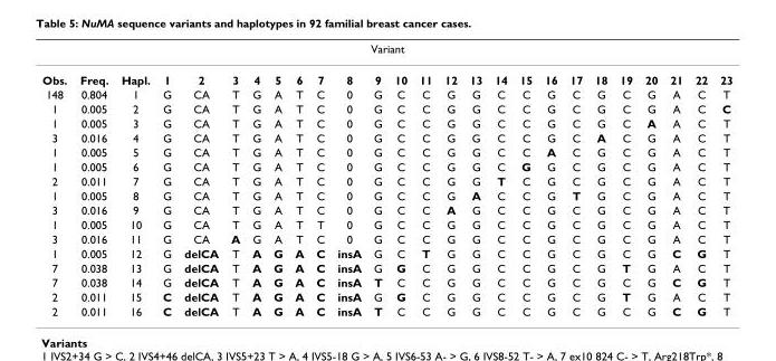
<table><thead><tr><td colspan="26">Variant</td></tr><tr><td>Obs.</td><td>Freq.</td><td>Hapl.</td><td>1</td><td>2</td><td>3</td><td>4</td><td>5</td><td>6</td><td>7</td><td>8</td><td>9</td><td>10</td><td>11</td><td>12</td><td>13</td><td>14</td><td>15</td><td>16</td><td>17</td><td>18</td><td>19</td><td>20</td><td>21</td><td>22</td><td>23</td></tr></thead><tbody><tr><td>148</td><td>0.804</td><td>1</td><td>G</td><td>CA</td><td>T</td><td>G</td><td>A</td><td>T</td><td>C</td><td>0</td><td>G</td><td>C</td><td>C</td><td>G</td><td>G</td><td>C</td><td>C</td><td>G</td><td>C</td><td>G</td><td>C</td><td>G</td><td>A</td><td>C</td><td>T</td></tr><tr><td>1</td><td>0.005</td><td>2</td><td>G</td><td>CA</td><td>T</td><td>G</td><td>A</td><td>T</td><td>C</td><td>0</td><td>G</td><td>C</td><td>C</td><td>G</td><td>G</td><td>C</td><td>C</td><td>G</td><td>C</td><td>G</td><td>C</td><td>G</td><td>A</td><td>C</td><td>C</td></tr><tr><td>1</td><td>0.005</td><td>3</td><td>G</td><td>CA</td><td>T</td><td>G</td><td>A</td><td>T</td><td>C</td><td>0</td><td>G</td><td>C</td><td>C</td><td>G</td><td>G</td><td>C</td><td>C</td><td>G</td><td>C</td><td>G</td><td>C</td><td>A</td><td>A</td><td>C</td><td>T</td></tr><tr><td>3</td><td>0.016</td><td>4</td><td>G</td><td>CA</td><td>T</td><td>G</td><td>A</td><td>T</td><td>C</td><td>0</td><td>G</td><td>C</td><td>C</td><td>G</td><td>G</td><td>C</td><td>C</td><td>G</td><td>C</td><td>A</td><td>C</td><td>G</td><td>A</td><td>C</td><td>T</td></tr><tr><td>1</td><td>0.005</td><td>5</td><td>G</td><td>CA</td><td>T</td><td>G</td><td>A</td><td>T</td><td>C</td><td>0</td><td>G</td><td>C</td><td>C</td><td>G</td><td>G</td><td>C</td><td>C</td><td>A</td><td>C</td><td>G</td><td>C</td><td>G</td><td>A</td><td>C</td><td>T</td></tr><tr><td>1</td><td>0.005</td><td>6</td><td>G</td><td>CA</td><td>T</td><td>G</td><td>A</td><td>T</td><td>C</td><td>0</td><td>G</td><td>C</td><td>C</td><td>G</td><td>G</td><td>C</td><td>G</td><td>G</td><td>C</td><td>G</td><td>C</td><td>G</td><td>A</td><td>C</td><td>T</td></tr><tr><td>2</td><td>0.011</td><td>7</td><td>G</td><td>CA</td><td>T</td><td>G</td><td>A</td><td>T</td><td>C</td><td>0</td><td>G</td><td>C</td><td>C</td><td>G</td><td>G</td><td>T</td><td>C</td><td>G</td><td>C</td><td>G</td><td>C</td><td>G</td><td>A</td><td>C</td><td>T</td></tr><tr><td>1</td><td>0.005</td><td>8</td><td>G</td><td>CA</td><td>T</td><td>G</td><td>A</td><td>T</td><td>C</td><td>0</td><td>G</td><td>C</td><td>C</td><td>G</td><td>A</td><td>C</td><td>C</td><td>G</td><td>T</td><td>G</td><td>C</td><td>G</td><td>A</td><td>C</td><td>T</td></tr><tr><td>3</td><td>0.016</td><td>9</td><td>G</td><td>CA</td><td>T</td><td>G</td><td>A</td><td>T</td><td>C</td><td>0</td><td>G</td><td>C</td><td>C</td><td>A</td><td>G</td><td>C</td><td>C</td><td>G</td><td>C</td><td>G</td><td>C</td><td>G</td><td>A</td><td>C</td><td>T</td></tr><tr><td>1</td><td>0.005</td><td>10</td><td>G</td><td>CA</td><td>T</td><td>G</td><td>A</td><td>T</td><td>T</td><td>0</td><td>G</td><td>C</td><td>C</td><td>G</td><td>G</td><td>C</td><td>C</td><td>G</td><td>C</td><td>G</td><td>C</td><td>G</td><td>A</td><td>C</td><td>T</td></tr><tr><td>3</td><td>0.016</td><td>11</td><td>G</td><td>CA</td><td>A</td><td>G</td><td>A</td><td>T</td><td>C</td><td>0</td><td>G</td><td>C</td><td>C</td><td>G</td><td>G</td><td>C</td><td>C</td><td>G</td><td>C</td><td>G</td><td>C</td><td>G</td><td>A</td><td>C</td><td>T</td></tr><tr><td>1</td><td>0.005</td><td>12</td><td>G</td><td>delCA</td><td>T</td><td>A</td><td>G</td><td>A</td><td>C</td><td>insA</td><td>G</td><td>C</td><td>T</td><td>G</td><td>G</td><td>C</td><td>C</td><td>G</td><td>C</td><td>G</td><td>C</td><td>G</td><td>C</td><td>G</td><td>T</td></tr><tr><td>7</td><td>0.038</td><td>13</td><td>G</td><td>delCA</td><td>T</td><td>A</td><td>G</td><td>A</td><td>C</td><td>insA</td><td>G</td><td>G</td><td>C</td><td>G</td><td>G</td><td>C</td><td>C</td><td>G</td><td>C</td><td>G</td><td>T</td><td>G</td><td>A</td><td>C</td><td>T</td></tr><tr><td>7</td><td>0.038</td><td>14</td><td>G</td><td>delCA</td><td>T</td><td>A</td><td>G</td><td>A</td><td>C</td><td>insA</td><td>T</td><td>C</td><td>C</td><td>G</td><td>G</td><td>C</td><td>C</td><td>G</td><td>C</td><td>G</td><td>C</td><td>G</td><td>C</td><td>G</td><td>T</td></tr><tr><td>2</td><td>0.011</td><td>15</td><td>C</td><td>delCA</td><td>T</td><td>A</td><td>G</td><td>A</td><td>C</td><td>insA</td><td>G</td><td>G</td><td>C</td><td>G</td><td>G</td><td>C</td><td>C</td><td>G</td><td>C</td><td>G</td><td>T</td><td>G</td><td>A</td><td>C</td><td>T</td></tr><tr><td>2</td><td>0.011</td><td>16</td><td>C</td><td>delCA</td><td>T</td><td>A</td><td>G</td><td>A</td><td>C</td><td>insA</td><td>T</td><td>C</td><td>C</td><td>G</td><td>G</td><td>C</td><td>C</td><td>G</td><td>C</td><td>G</td><td>C</td><td>G</td><td>C</td><td>G</td><td>T</td></tr></tbody></table>